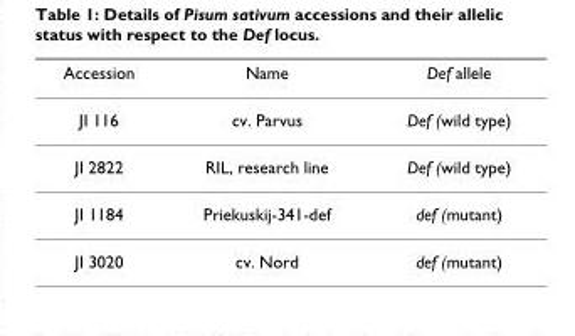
<table><thead><tr><td>Accession</td><td>Name</td><td>Def allele</td></tr></thead><tbody><tr><td>JI 116</td><td>cv. Parvus</td><td>Def (wild type)</td></tr><tr><td>JI 2822</td><td>RIL, research line</td><td>Def (wild type)</td></tr><tr><td>JI 1184</td><td>Priekuskij-341-def</td><td>def (mutant)</td></tr><tr><td>JI 3020</td><td>cv. Nord</td><td>def (mutant)</td></tr></tbody></table>